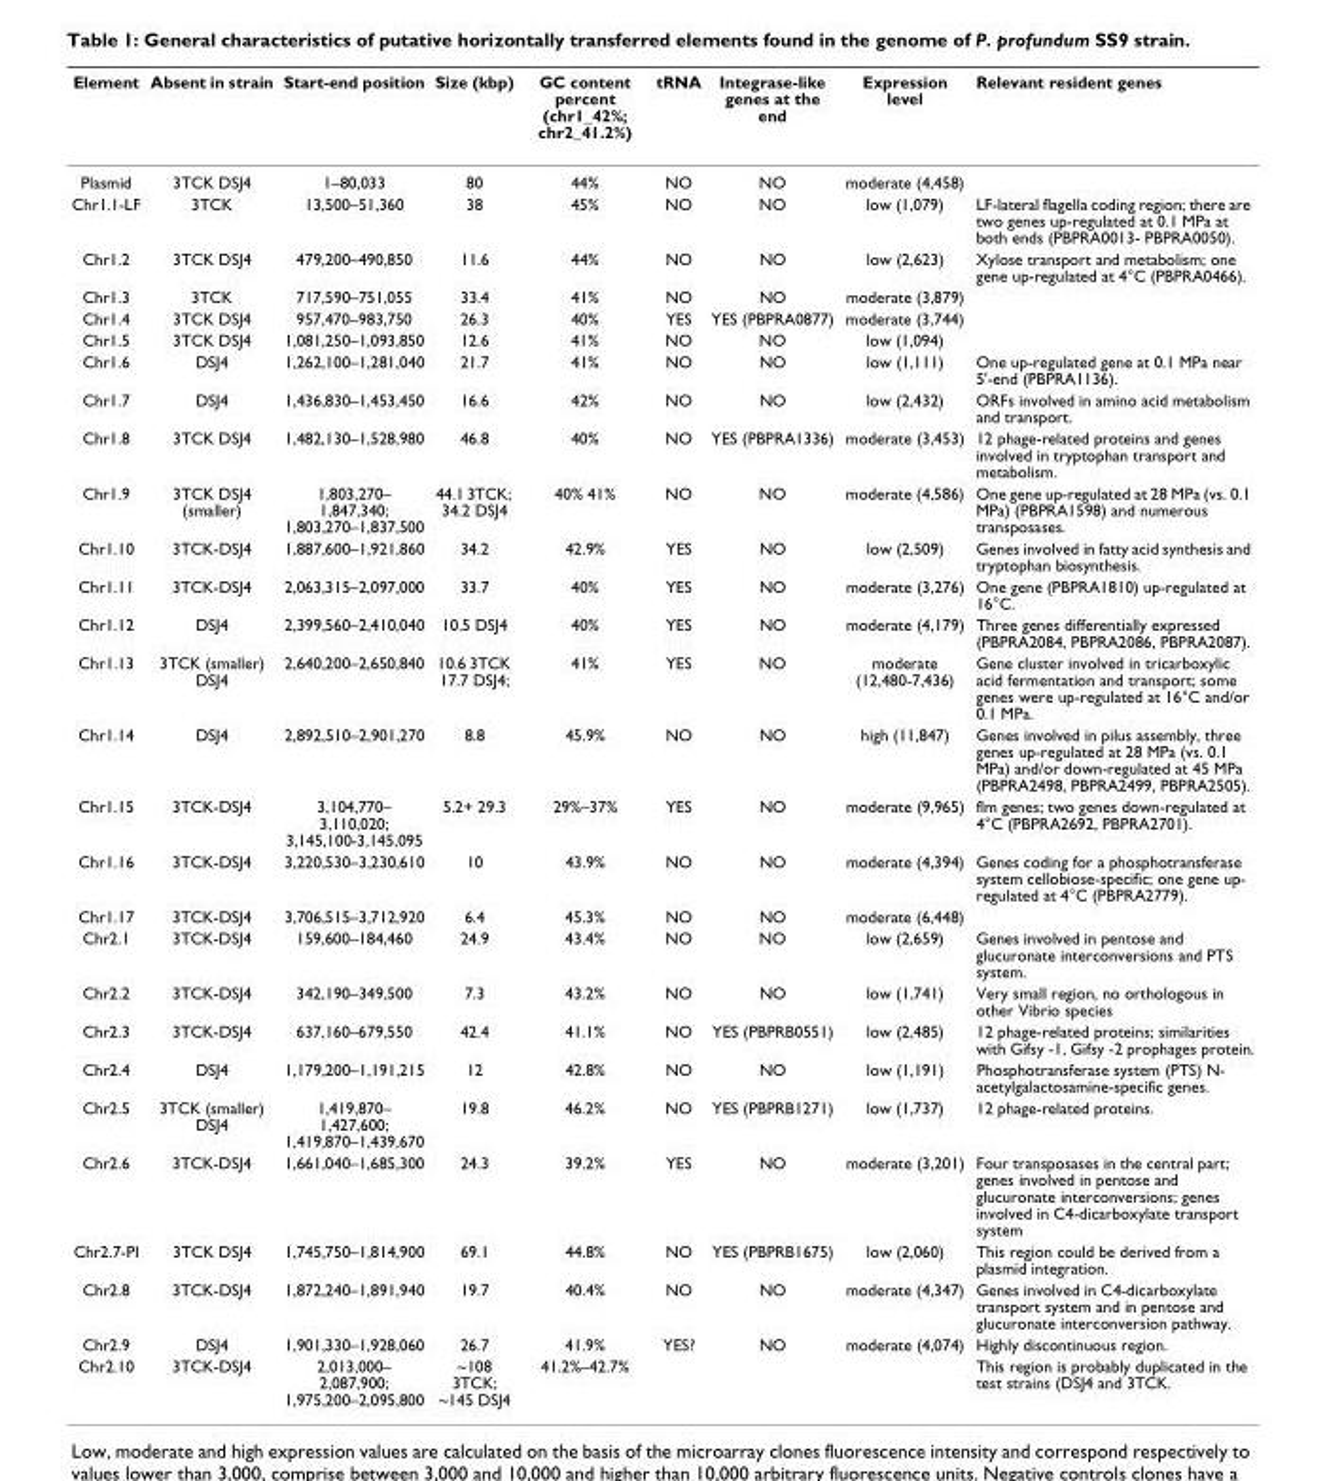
<table><thead><tr><td>Element</td><td>Absent in strain</td><td>Start-end position</td><td>Size (kbp)</td><td>GC content percent (chr1_42%; chr2_41.2%)</td><td>tRNA</td><td>Integrase-like genes at the end</td><td>Expression level</td><td>Relevant resident genes</td></tr></thead><tbody><tr><td>Plasmid</td><td>3TCK DSJ4</td><td>1–80,033</td><td>80</td><td>44%</td><td>NO</td><td>NO</td><td>moderate (4,458)</td><td></td></tr><tr><td>Chr1.1-LF</td><td>3TCK</td><td>13,500–51,360</td><td>38</td><td>45%</td><td>NO</td><td>NO</td><td>low (1,079)</td><td>LF-lateral flagella coding region; there are two genes up-regulated at 0.1 MPa at both ends (PBPRA0013- PBPRA0050).</td></tr><tr><td>Chr1.2</td><td>3TCK DSJ4</td><td>479,200–490,850</td><td>11.6</td><td>44%</td><td>NO</td><td>NO</td><td>low (2,623)</td><td>Xylose transport and metabolism; one gene up-regulated at 4°C (PBPRA0466).</td></tr><tr><td>Chr1.3</td><td>3TCK</td><td>717,590–751,055</td><td>33.4</td><td>41%</td><td>NO</td><td>NO</td><td>moderate (3,879)</td><td></td></tr><tr><td>Chr1.4</td><td>3TCK DSJ4</td><td>957,470–983,750</td><td>26.3</td><td>40%</td><td>YES</td><td>YES (PBPRA0877)</td><td>moderate (3,744)</td><td></td></tr><tr><td>Chr1.5</td><td>3TCK DSJ4</td><td>1,081,250–1,093,850</td><td>12.6</td><td>41%</td><td>NO</td><td>NO</td><td>low (1,094)</td><td></td></tr><tr><td>Chr1.6</td><td>DSJ4</td><td>1,262,100–1,281,040</td><td>21.7</td><td>41%</td><td>NO</td><td>NO</td><td>low (1,111)</td><td>One up-regulated gene at 0.1 MPa near 5&#x27;-end (PBPRA1136).</td></tr><tr><td>Chr1.7</td><td>DSJ4</td><td>1,436,830–1,453,450</td><td>16.6</td><td>42%</td><td>NO</td><td>NO</td><td>low (2,432)</td><td>ORFs involved in amino acid metabolism and transport.</td></tr><tr><td>Chr1.8</td><td>3TCK DSJ4</td><td>1,482,130–1,528,980</td><td>46.8</td><td>40%</td><td>NO</td><td>YES (PBPRA1336)</td><td>moderate (3,453)</td><td>12 phage-related proteins and genes involved in tryptophan transport and metabolism.</td></tr><tr><td>Chr1.9</td><td>3TCK DSJ4 (smaller)</td><td>1,803,270– 1,847,340; 1,803,270–1,837,500</td><td>44.1 3TCK; 34.2 DSJ4</td><td>40% 41%</td><td>NO</td><td>NO</td><td>moderate (4,586)</td><td>One gene up-regulated at 28 MPa (vs. 0.1 MPa) (PBPRA1598) and numerous transposases.</td></tr><tr><td>Chr1.10</td><td>3TCK-DSJ4</td><td>1,887,600–1,921,860</td><td>34.2</td><td>42.9%</td><td>YES</td><td>NO</td><td>low (2,509)</td><td>Genes involved in fatty acid synthesis and tryptophan biosynthesis.</td></tr><tr><td>Chr1.11</td><td>3TCK-DSJ4</td><td>2,063,315–2,097,000</td><td>33.7</td><td>40%</td><td>YES</td><td>NO</td><td>moderate (3,276)</td><td>One gene (PBPRA1810) up-regulated at 16°C.</td></tr><tr><td>Chr1.12</td><td>DSJ4</td><td>2,399,560–2,410,040</td><td>10.5 DSJ4</td><td>40%</td><td>YES</td><td>NO</td><td>moderate (4,179)</td><td>Three genes differentially expressed (PBPRA2084, PBPRA2086, PBPRA2087).</td></tr><tr><td>Chr1.13</td><td>3TCK (smaller) DSJ4</td><td>2,640,200–2,650,840</td><td>10.6 3TCK 17.7 DSJ4;</td><td>41%</td><td>YES</td><td>NO</td><td>moderate (12,480-7,436)</td><td>Gene cluster involved in tricarboxylic acid fermentation and transport; some genes were up-regulated at 16°C and/or 0.1 MPa.</td></tr><tr><td>Chr1.14</td><td>DSJ4</td><td>2,892,510–2,901,270</td><td>8.8</td><td>45.9%</td><td>NO</td><td>NO</td><td>high (11,847)</td><td>Genes involved in pilus assembly, three genes up-regulated at 28 MPa (vs. 0.1 MPa) and/or down-regulated at 45 MPa (PBPRA2498, PBPRA2499, PBPRA2505).</td></tr><tr><td>Chr1.15</td><td>3TCK-DSJ4</td><td>3,104,770– 3,110,020; 3,145,100-3,145,095</td><td>5.2+ 29.3</td><td>29%–37%</td><td>YES</td><td>NO</td><td>moderate (9,965)</td><td>flm genes; two genes down-regulated at 4°C (PBPRA2692, PBPRA2701).</td></tr><tr><td>Chr1.16</td><td>3TCK-DSJ4</td><td>3,220,530–3,230,610</td><td>10</td><td>43.9%</td><td>NO</td><td>NO</td><td>moderate (4,394)</td><td>Genes coding for a phosphotransferase system cellobiose-specific; one gene up- regulated at 4°C (PBPRA2779).</td></tr><tr><td>Chr1.17</td><td>3TCK-DSJ4</td><td>3,706,515–3,712,920</td><td>6.4</td><td>45.3%</td><td>NO</td><td>NO</td><td>moderate (6,448)</td><td></td></tr><tr><td>Chr2.1</td><td>3TCK-DSJ4</td><td>159,600–184,460</td><td>24.9</td><td>43.4%</td><td>NO</td><td>NO</td><td>low (2,659)</td><td>Genes involved in pentose and glucuronate interconversions and PTS system.</td></tr><tr><td>Chr2.2</td><td>3TCK-DSJ4</td><td>342,190–349,500</td><td>7.3</td><td>43.2%</td><td>NO</td><td>NO</td><td>low (1,741)</td><td>Very small region, no orthologous in other Vibrio species</td></tr><tr><td>Chr2.3</td><td>3TCK-DSJ4</td><td>637,160–679,550</td><td>42.4</td><td>41.1%</td><td>NO</td><td>YES (PBPRB0551)</td><td>low (2,485)</td><td>12 phage-related proteins; similarities with Gifsy -1, Gifsy -2 prophages protein.</td></tr><tr><td>Chr2.4</td><td>DSJ4</td><td>1,179,200–1,191,215</td><td>12</td><td>42.8%</td><td>NO</td><td>NO</td><td>low (1,191)</td><td>Phosphotransferase system (PTS) N- acetylgalactosamine-specific genes.</td></tr><tr><td>Chr2.5</td><td>3TCK (smaller) DSJ4</td><td>1,419,870– 1,427,600; 1,419,870–1,439,670</td><td>19.8</td><td>46.2%</td><td>NO</td><td>YES (PBPRB1271)</td><td>low (1,737)</td><td>12 phage-related proteins.</td></tr><tr><td>Chr2.6</td><td>3TCK-DSJ4</td><td>1,661,040–1,685,300</td><td>24.3</td><td>39.2%</td><td>YES</td><td>NO</td><td>moderate (3,201)</td><td>Four transposases in the central part; genes involved in pentose and glucuronate interconversions; genes involved in C4-dicarboxylate transport system</td></tr><tr><td>Chr2.7-PI</td><td>3TCK DSJ4</td><td>1,745,750–1,814,900</td><td>69.1</td><td>44.8%</td><td>NO</td><td>YES (PBPRB1675)</td><td>low (2,060)</td><td>This region could be derived from a plasmid integration.</td></tr><tr><td>Chr2.8</td><td>3TCK-DSJ4</td><td>1,872,240–1,891,940</td><td>19.7</td><td>40.4%</td><td>NO</td><td>NO</td><td>moderate (4,347)</td><td>Genes involved in C4-dicarboxylate transport system and in pentose and glucuronate interconversion pathway.</td></tr><tr><td>Chr2.9</td><td>DSJ4</td><td>1,901,330–1,928,060</td><td>26.7</td><td>41.9%</td><td>YES?</td><td>NO</td><td>moderate (4,074)</td><td>Highly discontinuous region.</td></tr><tr><td>Chr2.10</td><td>3TCK-DSJ4</td><td>2,013,000– 2,087,900; 1,975,200–2,095,800</td><td>~108 3TCK; ~145 DSJ4</td><td>41.2%–42.7%</td><td></td><td></td><td></td><td>This region is probably duplicated in the test strains (DSJ4 and 3TCK.</td></tr></tbody></table>